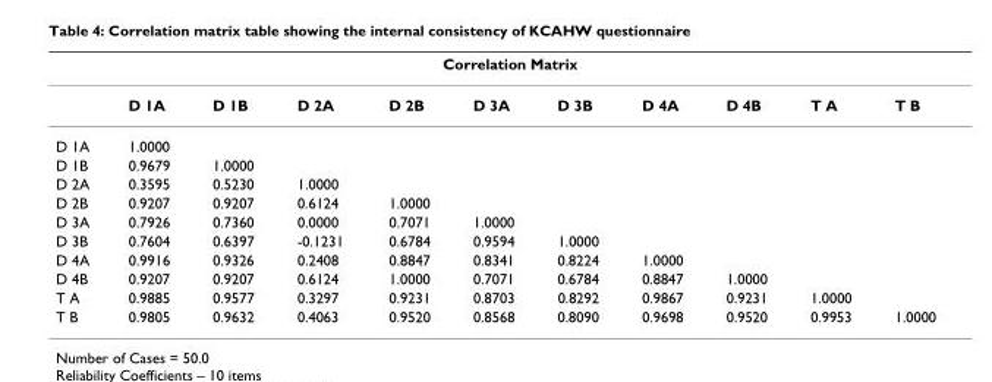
<table><thead><tr><td colspan="11">Correlation Matrix</td></tr><tr><td></td><td>D 1A</td><td>D 1B</td><td>D 2A</td><td>D 2B</td><td>D 3A</td><td>D 3B</td><td>D 4A</td><td>D 4B</td><td>T A</td><td>T B</td></tr></thead><tbody><tr><td>D 1A</td><td>1.0000</td><td></td><td></td><td></td><td></td><td></td><td></td><td></td><td></td><td></td></tr><tr><td>D 1B</td><td>0.9679</td><td>1.0000</td><td></td><td></td><td></td><td></td><td></td><td></td><td></td><td></td></tr><tr><td>D 2A</td><td>0.3595</td><td>0.5230</td><td>1.0000</td><td></td><td></td><td></td><td></td><td></td><td></td><td></td></tr><tr><td>D 2B</td><td>0.9207</td><td>0.9207</td><td>0.6124</td><td>1.0000</td><td></td><td></td><td></td><td></td><td></td><td></td></tr><tr><td>D 3A</td><td>0.7926</td><td>0.7360</td><td>0.0000</td><td>0.7071</td><td>1.0000</td><td></td><td></td><td></td><td></td><td></td></tr><tr><td>D 3B</td><td>0.7604</td><td>0.6397</td><td>-0.1231</td><td>0.6784</td><td>0.9594</td><td>1.0000</td><td></td><td></td><td></td><td></td></tr><tr><td>D 4A</td><td>0.9916</td><td>0.9326</td><td>0.2408</td><td>0.8847</td><td>0.8341</td><td>0.8224</td><td>1.0000</td><td></td><td></td><td></td></tr><tr><td>D 4B</td><td>0.9207</td><td>0.9207</td><td>0.6124</td><td>1.0000</td><td>0.7071</td><td>0.6784</td><td>0.8847</td><td>1.0000</td><td></td><td></td></tr><tr><td>T A</td><td>0.9885</td><td>0.9577</td><td>0.3297</td><td>0.9231</td><td>0.8703</td><td>0.8292</td><td>0.9867</td><td>0.9231</td><td>1.0000</td><td></td></tr><tr><td>T B</td><td>0.9805</td><td>0.9632</td><td>0.4063</td><td>0.9520</td><td>0.8568</td><td>0.8090</td><td>0.9698</td><td>0.9520</td><td>0.9953</td><td>1.0000</td></tr></tbody></table>